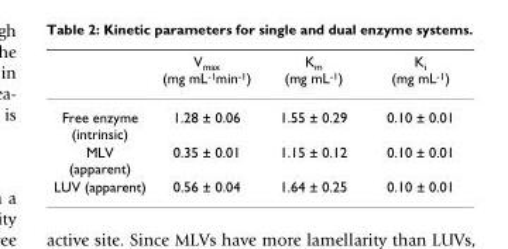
<table><thead><tr><td></td><td>V<sub>max</sub> (mg mL<sup>-1</sup>min<sup>-1</sup>)</td><td>K<sub>m</sub> (mg mL<sup>-1</sup>)</td><td>K<sub>i</sub> (mg mL<sup>-1</sup>)</td></tr></thead><tbody><tr><td>Free enzyme (intrinsic)</td><td>1.28 ± 0.06</td><td>1.55 ± 0.29</td><td>0.10 ± 0.01</td></tr><tr><td>MLV (apparent)</td><td>0.35 ± 0.01</td><td>1.15 ± 0.12</td><td>0.10 ± 0.01</td></tr><tr><td>LUV (apparent)</td><td>0.56 ± 0.04</td><td>1.64 ± 0.25</td><td>0.10 ± 0.01</td></tr></tbody></table>